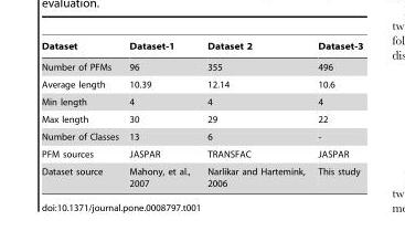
<table><thead><tr><td>Dataset</td><td>Dataset-1</td><td>Dataset 2</td><td>Dataset-3</td></tr></thead><tbody><tr><td>Number of PFMs</td><td>96</td><td>355</td><td>496</td></tr><tr><td>Average length</td><td>10.39</td><td>12.14</td><td>10.6</td></tr><tr><td>Min length</td><td>4</td><td>4</td><td>4</td></tr><tr><td>Max length</td><td>30</td><td>29</td><td>22</td></tr><tr><td>Number of Classes</td><td>13</td><td>6</td><td>-</td></tr><tr><td>PFM sources</td><td>JASPAR</td><td>TRANSFAC</td><td>JASPAR</td></tr><tr><td>Dataset source</td><td>Mahony, et al., 2007</td><td>Narlikar and Hartemink, 2006</td><td>This study</td></tr></tbody></table>